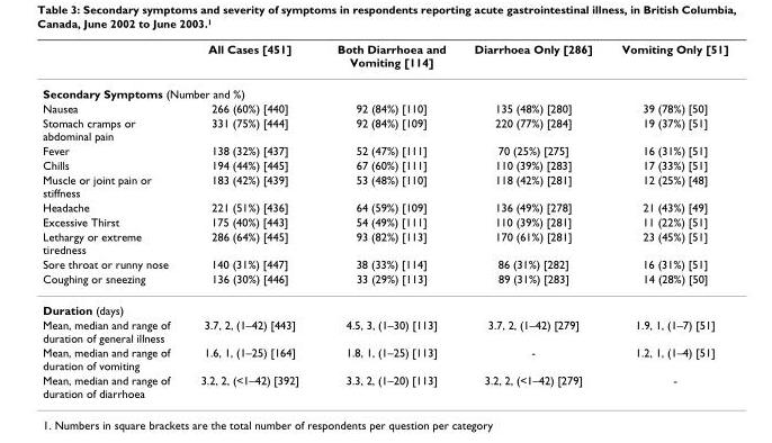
<table><thead><tr><td></td><td>All Cases [451]</td><td>Both Diarrhoea and Vomiting [114]</td><td>Diarrhoea Only [286]</td><td>Vomiting Only [51]</td></tr></thead><tbody><tr><td colspan="5">Secondary Symptoms (Number and %)</td></tr><tr><td>Nausea</td><td>266 (60%) [440]</td><td>92 (84%) [110]</td><td>135 (48%) [280]</td><td>39 (78%) [50]</td></tr><tr><td>Stomach cramps or abdominal pain</td><td>331 (75%) [444]</td><td>92 (84%) [109]</td><td>220 (77%) [284]</td><td>19 (37%) [51]</td></tr><tr><td>Fever</td><td>138 (32%) [437]</td><td>52 (47%) [111]</td><td>70 (25%) [275]</td><td>16 (31%) [51]</td></tr><tr><td>Chills</td><td>194 (44%) [445]</td><td>67 (60%) [111]</td><td>110 (39%) [283]</td><td>17 (33%) [51]</td></tr><tr><td>Muscle or joint pain or stiffness</td><td>183 (42%) [439]</td><td>53 (48%) [110]</td><td>118 (42%) [281]</td><td>12 (25%) [48]</td></tr><tr><td>Headache</td><td>221 (51%) [436]</td><td>64 (59%) [109]</td><td>136 (49%) [278]</td><td>21 (43%) [49]</td></tr><tr><td>Excessive Thirst</td><td>175 (40%) [443]</td><td>54 (49%) [111]</td><td>110 (39%) [281]</td><td>11 (22%) [51]</td></tr><tr><td>Lethargy or extreme tiredness</td><td>286 (64%) [445]</td><td>93 (82%) [113]</td><td>170 (61%) [281]</td><td>23 (45%) [51]</td></tr><tr><td>Sore throat or runny nose</td><td>140 (31%) [447]</td><td>38 (33%) [114]</td><td>86 (31%) [282]</td><td>16 (31%) [51]</td></tr><tr><td>Coughing or sneezing</td><td>136 (30%) [446]</td><td>33 (29%) [113]</td><td>89 (31%) [283]</td><td>14 (28%) [50]</td></tr><tr><td colspan="5">Duration (days)</td></tr><tr><td>Mean, median and range of duration of general illness</td><td>3.7, 2, (1–42) [443]</td><td>4.5, 3, (1–30) [113]</td><td>3.7, 2, (1–42) [279]</td><td>1.9, 1, (1–7) [51]</td></tr><tr><td>Mean, median and range of duration of vomiting</td><td>1.6, 1, (1–25) [164]</td><td>1.8, 1, (1–25) [113]</td><td>-</td><td>1.2, 1, (1–4) [51]</td></tr><tr><td>Mean, median and range of duration of diarrhoea</td><td>3.2, 2, (&lt;1–42) [392]</td><td>3.3, 2, (1–20) [113]</td><td>3.2, 2, (&lt;1–42) [279]</td><td>-</td></tr></tbody></table>